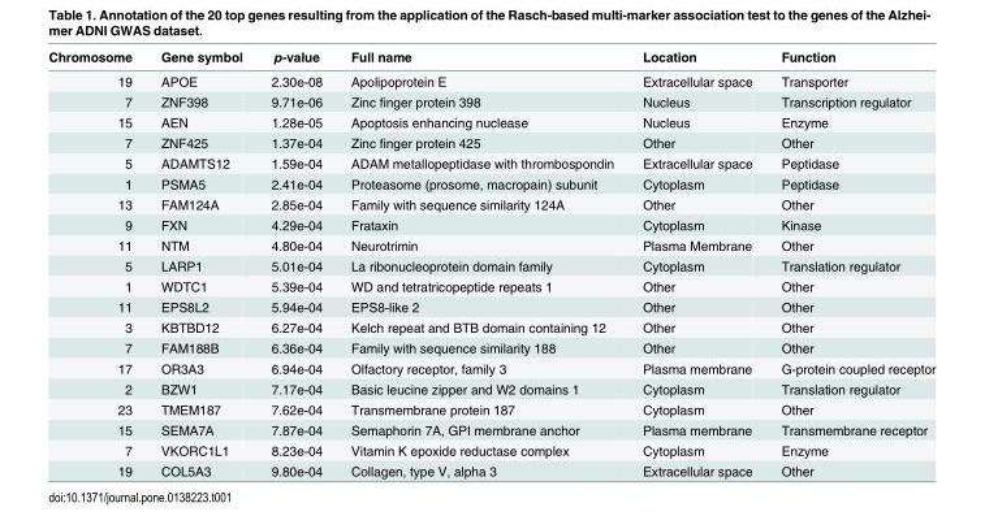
<table><thead><tr><td>Chromosome</td><td>Gene symbol</td><td>p-value</td><td>Full name</td><td>Location</td><td>Function</td></tr></thead><tbody><tr><td>19</td><td>APOE</td><td>2.30e-08</td><td>Apolipoprotein E</td><td>Extracellular space</td><td>Transporter</td></tr><tr><td>7</td><td>ZNF398</td><td>9.71e-06</td><td>Zinc finger protein 398</td><td>Nucleus</td><td>Transcription regulator</td></tr><tr><td>15</td><td>AEN</td><td>1.28e-05</td><td>Apoptosis enhancing nuclease</td><td>Nucleus</td><td>Enzyme</td></tr><tr><td>7</td><td>ZNF425</td><td>1.37e-04</td><td>Zinc finger protein 425</td><td>Other</td><td>Other</td></tr><tr><td>5</td><td>ADAMTS12</td><td>1.59e-04</td><td>ADAM metallopeptidase with thrombospondin</td><td>Extracellular space</td><td>Peptidase</td></tr><tr><td>1</td><td>PSMA5</td><td>2.41e-04</td><td>Proteasome (prosome, macropain) subunit</td><td>Cytoplasm</td><td>Peptidase</td></tr><tr><td>13</td><td>FAM124A</td><td>2.85e-04</td><td>Family with sequence similarity 124A</td><td>Other</td><td>Other</td></tr><tr><td>9</td><td>FXN</td><td>4.29e-04</td><td>Frataxin</td><td>Cytoplasm</td><td>Kinase</td></tr><tr><td>11</td><td>NTM</td><td>4.80e-04</td><td>Neurotrimin</td><td>Plasma Membrane</td><td>Other</td></tr><tr><td>5</td><td>LARP1</td><td>5.01e-04</td><td>La ribonucleoprotein domain family</td><td>Cytoplasm</td><td>Translation regulator</td></tr><tr><td>1</td><td>WDTC1</td><td>5.39e-04</td><td>WD and tetratricopeptide repeats 1</td><td>Other</td><td>Other</td></tr><tr><td>11</td><td>EPS8L2</td><td>5.94e-04</td><td>EPS8-like 2</td><td>Other</td><td>Other</td></tr><tr><td>3</td><td>KBTBD12</td><td>6.27e-04</td><td>Kelch repeat and BTB domain containing 12</td><td>Other</td><td>Other</td></tr><tr><td>7</td><td>FAM188B</td><td>6.36e-04</td><td>Family with sequence similarity 188</td><td>Other</td><td>Other</td></tr><tr><td>17</td><td>OR3A3</td><td>6.94e-04</td><td>Olfactory receptor, family 3</td><td>Plasma membrane</td><td>G-protein coupled receptor</td></tr><tr><td>2</td><td>BZW1</td><td>7.17e-04</td><td>Basic leucine zipper and W2 domains 1</td><td>Cytoplasm</td><td>Translation regulator</td></tr><tr><td>23</td><td>TMEM187</td><td>7.62e-04</td><td>Transmembrane protein 187</td><td>Cytoplasm</td><td>Other</td></tr><tr><td>15</td><td>SEMA7A</td><td>7.87e-04</td><td>Semaphorin 7A, GPI membrane anchor</td><td>Plasma membrane</td><td>Transmembrane receptor</td></tr><tr><td>7</td><td>VKORC1L1</td><td>8.23e-04</td><td>Vitamin K epoxide reductase complex</td><td>Cytoplasm</td><td>Enzyme</td></tr><tr><td>19</td><td>COL5A3</td><td>9.80e-04</td><td>Collagen, type V, alpha 3</td><td>Extracellular space</td><td>Other</td></tr></tbody></table>